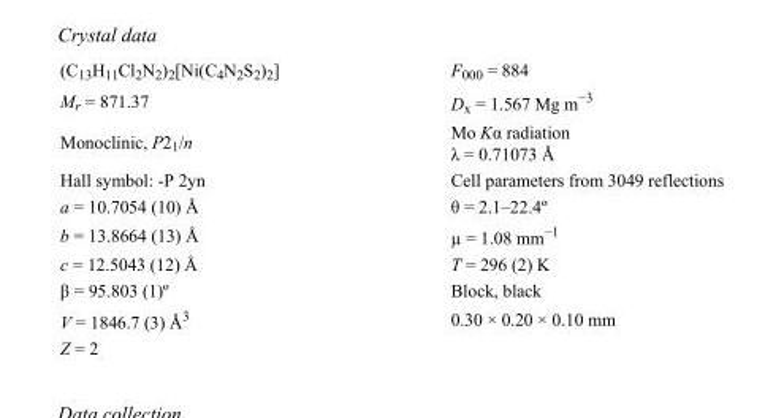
<table><tbody><tr><td>(C<sub>13</sub>H<sub>11</sub>Cl<sub>2</sub>N<sub>2</sub>)<sub>2</sub>[Ni(C<sub>4</sub>N<sub>2</sub>S<sub>2</sub>)<sub>2</sub>]</td><td>F000 = 884</td></tr><tr><td>M<sub>r</sub> = 871.37</td><td>D<sub>x</sub> = 1.567 Mg m<sup>−3</sup></td></tr><tr><td>Monoclinic, P2<sub>1</sub>/n</td><td>Mo Kα radiation λ = 0.71073 Å</td></tr><tr><td>Hall symbol: -P 2yn</td><td>Cell parameters from 3049 reflections</td></tr><tr><td>a = 10.7054 (10) Å</td><td>θ = 2.1–22.4º</td></tr><tr><td>b = 13.8664 (13) Å</td><td>µ = 1.08 mm<sup>−1</sup></td></tr><tr><td>c = 12.5043 (12) Å</td><td>T = 296 (2) K</td></tr><tr><td>β = 95.803 (1)º</td><td>Block, black</td></tr><tr><td>V = 1846.7 (3) Å<sup>3</sup></td><td>0.30 × 0.20 × 0.10 mm</td></tr><tr><td>Z = 2</td><td></td></tr></tbody></table>